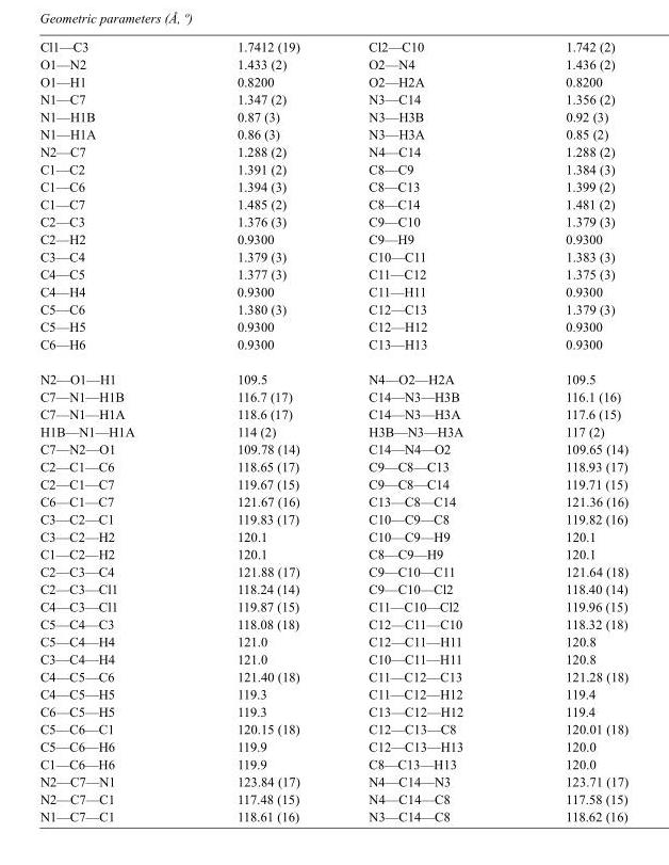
<table><tbody><tr><td>Cl1—C3</td><td>1.7412 (19)</td><td>Cl2—C10</td><td>1.742 (2)</td></tr><tr><td>O1—N2</td><td>1.433 (2)</td><td>O2—N4</td><td>1.436 (2)</td></tr><tr><td>O1—H1</td><td>0.8200</td><td>O2—H2A</td><td>0.8200</td></tr><tr><td>N1—C7</td><td>1.347 (2)</td><td>N3—C14</td><td>1.356 (2)</td></tr><tr><td>N1—H1B</td><td>0.87 (3)</td><td>N3—H3B</td><td>0.92 (3)</td></tr><tr><td>N1—H1A</td><td>0.86 (3)</td><td>N3—H3A</td><td>0.85 (2)</td></tr><tr><td>N2—C7</td><td>1.288 (2)</td><td>N4—C14</td><td>1.288 (2)</td></tr><tr><td>C1—C2</td><td>1.391 (2)</td><td>C8—C9</td><td>1.384 (3)</td></tr><tr><td>C1—C6</td><td>1.394 (3)</td><td>C8—C13</td><td>1.399 (2)</td></tr><tr><td>C1—C7</td><td>1.485 (2)</td><td>C8—C14</td><td>1.481 (2)</td></tr><tr><td>C2—C3</td><td>1.376 (3)</td><td>C9—C10</td><td>1.379 (3)</td></tr><tr><td>C2—H2</td><td>0.9300</td><td>C9—H9</td><td>0.9300</td></tr><tr><td>C3—C4</td><td>1.379 (3)</td><td>C10—C11</td><td>1.383 (3)</td></tr><tr><td>C4—C5</td><td>1.377 (3)</td><td>C11—C12</td><td>1.375 (3)</td></tr><tr><td>C4—H4</td><td>0.9300</td><td>C11—H11</td><td>0.9300</td></tr><tr><td>C5—C6</td><td>1.380 (3)</td><td>C12—C13</td><td>1.379 (3)</td></tr><tr><td>C5—H5</td><td>0.9300</td><td>C12—H12</td><td>0.9300</td></tr><tr><td>C6—H6</td><td>0.9300</td><td>C13—H13</td><td>0.9300</td></tr><tr><td>N2—O1—H1</td><td>109.5</td><td>N4—O2—H2A</td><td>109.5</td></tr><tr><td>C7—N1—H1B</td><td>116.7 (17)</td><td>C14—N3—H3B</td><td>116.1 (16)</td></tr><tr><td>C7—N1—H1A</td><td>118.6 (17)</td><td>C14—N3—H3A</td><td>117.6 (15)</td></tr><tr><td>H1B—N1—H1A</td><td>114 (2)</td><td>H3B—N3—H3A</td><td>117 (2)</td></tr><tr><td>C7—N2—O1</td><td>109.78 (14)</td><td>C14—N4—O2</td><td>109.65 (14)</td></tr><tr><td>C2—C1—C6</td><td>118.65 (17)</td><td>C9—C8—C13</td><td>118.93 (17)</td></tr><tr><td>C2—C1—C7</td><td>119.67 (15)</td><td>C9—C8—C14</td><td>119.71 (15)</td></tr><tr><td>C6—C1—C7</td><td>121.67 (16)</td><td>C13—C8—C14</td><td>121.36 (16)</td></tr><tr><td>C3—C2—C1</td><td>119.83 (17)</td><td>C10—C9—C8</td><td>119.82 (16)</td></tr><tr><td>C3—C2—H2</td><td>120.1</td><td>C10—C9—H9</td><td>120.1</td></tr><tr><td>C1—C2—H2</td><td>120.1</td><td>C8—C9—H9</td><td>120.1</td></tr><tr><td>C2—C3—C4</td><td>121.88 (17)</td><td>C9—C10—C11</td><td>121.64 (18)</td></tr><tr><td>C2—C3—Cl1</td><td>118.24 (14)</td><td>C9—C10—Cl2</td><td>118.40 (14)</td></tr><tr><td>C4—C3—Cl1</td><td>119.87 (15)</td><td>C11—C10—Cl2</td><td>119.96 (15)</td></tr><tr><td>C5—C4—C3</td><td>118.08 (18)</td><td>C12—C11—C10</td><td>118.32 (18)</td></tr><tr><td>C5—C4—H4</td><td>121.0</td><td>C12—C11—H11</td><td>120.8</td></tr><tr><td>C3—C4—H4</td><td>121.0</td><td>C10—C11—H11</td><td>120.8</td></tr><tr><td>C4—C5—C6</td><td>121.40 (18)</td><td>C11—C12—C13</td><td>121.28 (18)</td></tr><tr><td>C4—C5—H5</td><td>119.3</td><td>C11—C12—H12</td><td>119.4</td></tr><tr><td>C6—C5—H5</td><td>119.3</td><td>C13—C12—H12</td><td>119.4</td></tr><tr><td>C5—C6—C1</td><td>120.15 (18)</td><td>C12—C13—C8</td><td>120.01 (18)</td></tr><tr><td>C5—C6—H6</td><td>119.9</td><td>C12—C13—H13</td><td>120.0</td></tr><tr><td>C1—C6—H6</td><td>119.9</td><td>C8—C13—H13</td><td>120.0</td></tr><tr><td>N2—C7—N1</td><td>123.84 (17)</td><td>N4—C14—N3</td><td>123.71 (17)</td></tr><tr><td>N2—C7—C1</td><td>117.48 (15)</td><td>N4—C14—C8</td><td>117.58 (15)</td></tr><tr><td>N1—C7—C1</td><td>118.61 (16)</td><td>N3—C14—C8</td><td>118.62 (16)</td></tr></tbody></table>